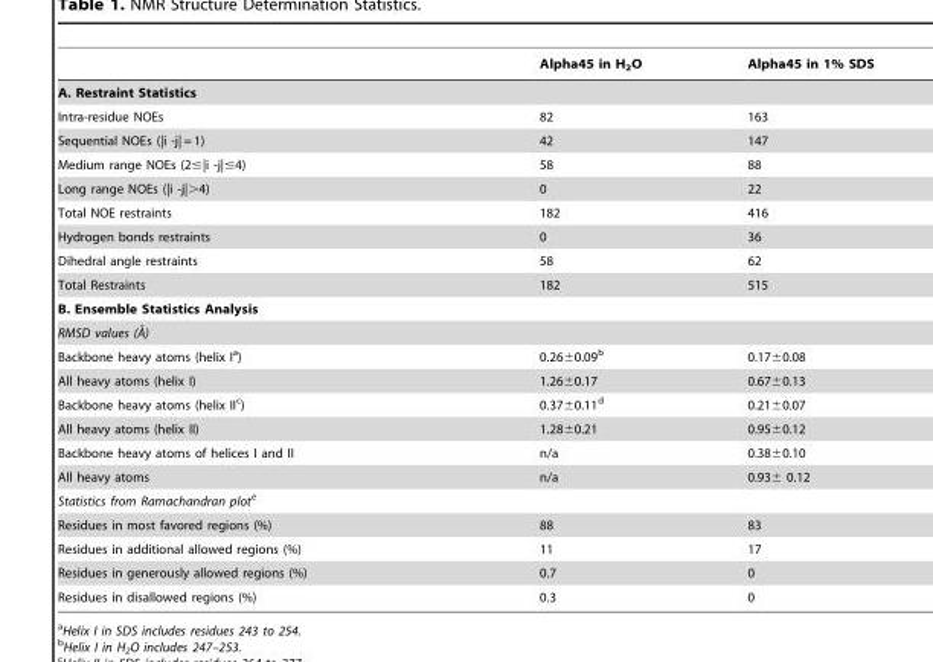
<table><thead><tr><td></td><td>Alpha45 in H<sub>2</sub>O</td><td>Alpha45 in 1% SDS</td></tr></thead><tbody><tr><td colspan="3">A. Restraint Statistics</td></tr><tr><td>Intra-residue NOEs</td><td>82</td><td>163</td></tr><tr><td>Sequential NOEs (|i -j| = 1)</td><td>42</td><td>147</td></tr><tr><td>Medium range NOEs (2≤|i -j|≤4)</td><td>58</td><td>88</td></tr><tr><td>Long range NOEs (|i -j|&gt;4)</td><td>0</td><td>22</td></tr><tr><td>Total NOE restraints</td><td>182</td><td>416</td></tr><tr><td>Hydrogen bonds restraints</td><td>0</td><td>36</td></tr><tr><td>Dihedral angle restraints</td><td>58</td><td>62</td></tr><tr><td>Total Restraints</td><td>182</td><td>515</td></tr><tr><td colspan="3">B. Ensemble Statistics Analysis</td></tr><tr><td colspan="3">RMSD values (A˚)</td></tr><tr><td>Backbone heavy atoms (helix I<sup>a</sup>)</td><td>0.26±0.09<sup>b</sup></td><td>0.17±0.08</td></tr><tr><td>All heavy atoms (helix I)</td><td>1.26±0.17</td><td>0.67±0.13</td></tr><tr><td>Backbone heavy atoms (helix II<sup>c</sup>)</td><td>0.37±0.11<sup>d</sup></td><td>0.21±0.07</td></tr><tr><td>All heavy atoms (helix II)</td><td>1.28±0.21</td><td>0.95±0.12</td></tr><tr><td>Backbone heavy atoms of helices I and II</td><td>n/a</td><td>0.38±0.10</td></tr><tr><td>All heavy atoms</td><td>n/a</td><td>0.93± 0.12</td></tr><tr><td colspan="3">Statistics from Ramachandran plote</td></tr><tr><td>Residues in most favored regions (%)</td><td>88</td><td>83</td></tr><tr><td>Residues in additional allowed regions (%)</td><td>11</td><td>17</td></tr><tr><td>Residues in generously allowed regions (%)</td><td>0.7</td><td>0</td></tr><tr><td>Residues in disallowed regions (%)</td><td>0.3</td><td>0</td></tr></tbody></table>